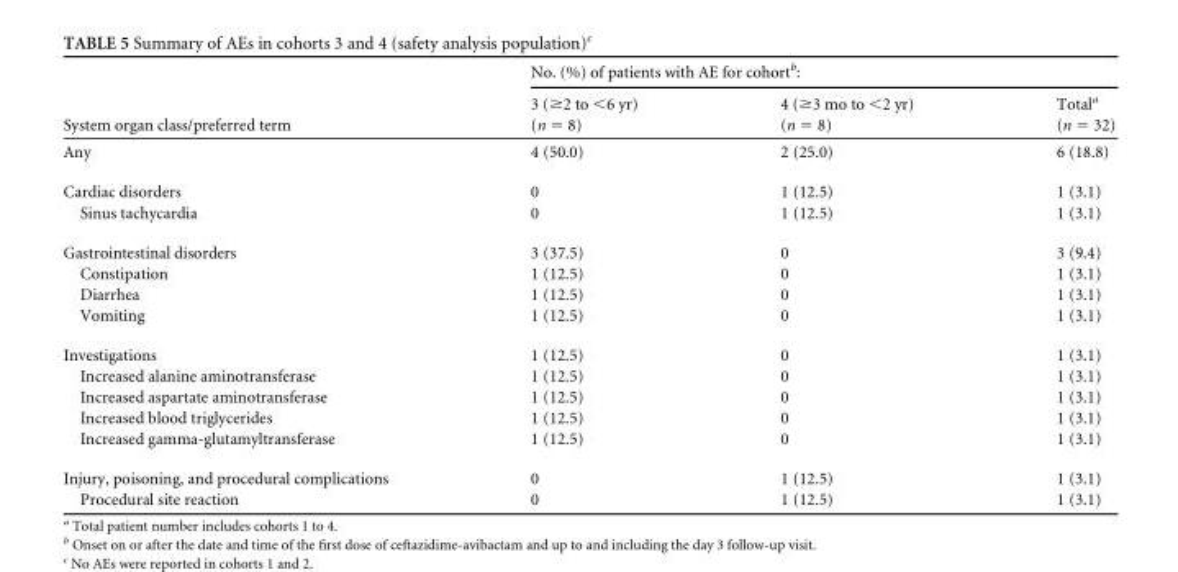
<table><thead><tr><td rowspan="2">System organ class/preferred term</td><td colspan="3">No. (%) of patients with AE for cohort<sup>b</sup>:</td></tr><tr><td>3 (≥2 to &lt;6 yr) (n = 8)</td><td>4 (≥3 mo to &lt;2 yr) (n = 8)</td><td>Total<sup>a</sup> (n = 32)</td></tr></thead><tbody><tr><td>Any</td><td>4 (50.0)</td><td>2 (25.0)</td><td>6 (18.8)</td></tr><tr><td>Cardiac disorders</td><td>0</td><td>1 (12.5)</td><td>1 (3.1)</td></tr><tr><td>Sinus tachycardia</td><td>0</td><td>1 (12.5)</td><td>1 (3.1)</td></tr><tr><td>Gastrointestinal disorders</td><td>3 (37.5)</td><td>0</td><td>3 (9.4)</td></tr><tr><td>Constipation</td><td>1 (12.5)</td><td>0</td><td>1 (3.1)</td></tr><tr><td>Diarrhea</td><td>1 (12.5)</td><td>0</td><td>1 (3.1)</td></tr><tr><td>Vomiting</td><td>1 (12.5)</td><td>0</td><td>1 (3.1)</td></tr><tr><td>Investigations</td><td>1 (12.5)</td><td>0</td><td>1 (3.1)</td></tr><tr><td>Increased alanine aminotransferase</td><td>1 (12.5)</td><td>0</td><td>1 (3.1)</td></tr><tr><td>Increased aspartate aminotransferase</td><td>1 (12.5)</td><td>0</td><td>1 (3.1)</td></tr><tr><td>Increased blood triglycerides</td><td>1 (12.5)</td><td>0</td><td>1 (3.1)</td></tr><tr><td>Increased gamma-glutamyltransferase</td><td>1 (12.5)</td><td>0</td><td>1 (3.1)</td></tr><tr><td>Injury, poisoning, and procedural complications</td><td>0</td><td>1 (12.5)</td><td>1 (3.1)</td></tr><tr><td>Procedural site reaction</td><td>0</td><td>1 (12.5)</td><td>1 (3.1)</td></tr></tbody></table>